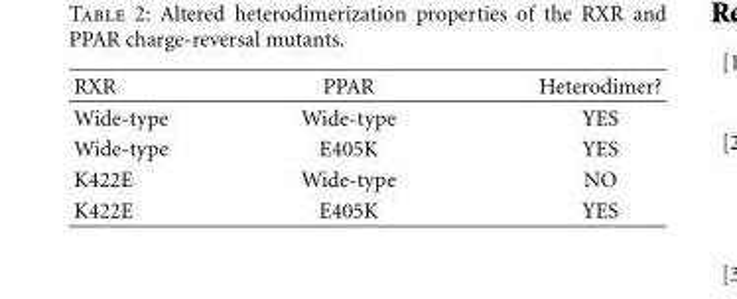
<table><thead><tr><td>RXR</td><td>PPAR</td><td>Heterodimer?</td></tr></thead><tbody><tr><td>Wide-type</td><td>Wide-type</td><td>YES</td></tr><tr><td>Wide-type</td><td>E405K</td><td>YES</td></tr><tr><td>K422E</td><td>Wide-type</td><td>NO</td></tr><tr><td>K422E</td><td>E405K</td><td>YES</td></tr></tbody></table>